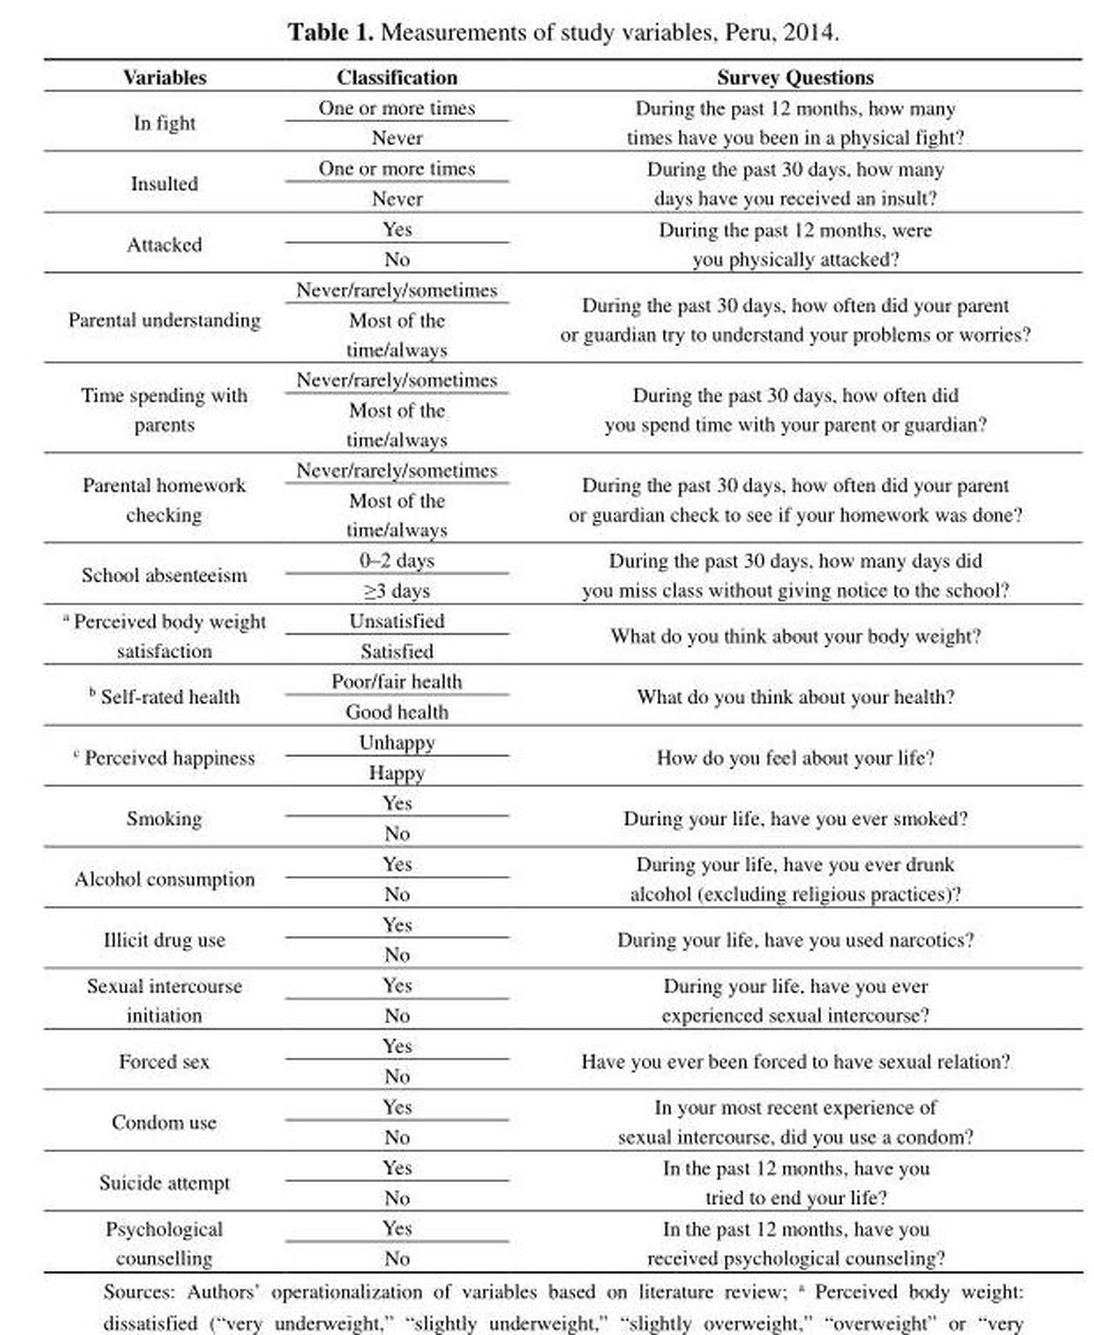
<table><thead><tr><td>Variables</td><td>Classification</td><td>Survey Questions</td></tr></thead><tbody><tr><td rowspan="2">In fight</td><td>One or more times</td><td rowspan="2">During the past 12 months, how many times have you been in a physical fight?</td></tr><tr><td>Never</td></tr><tr><td rowspan="2">Insulted</td><td>One or more times</td><td rowspan="2">During the past 30 days, how many days have you received an insult?</td></tr><tr><td>Never</td></tr><tr><td rowspan="2">Attacked</td><td>Yes</td><td rowspan="2">During the past 12 months, were you physically attacked?</td></tr><tr><td>No</td></tr><tr><td rowspan="2">Parental understanding</td><td>Never/rarely/sometimes</td><td rowspan="2">During the past 30 days, how often did your parent or guardian try to understand your problems or worries?</td></tr><tr><td>Most of the time/always</td></tr><tr><td rowspan="2">Time spending with parents</td><td>Never/rarely/sometimes</td><td rowspan="2">During the past 30 days, how often did you spend time with your parent or guardian?</td></tr><tr><td>Most of the time/always</td></tr><tr><td rowspan="2">Parental homework checking</td><td>Never/rarely/sometimes</td><td rowspan="2">During the past 30 days, how often did your parent or guardian check to see if your homework was done?</td></tr><tr><td>Most of the time/always</td></tr><tr><td rowspan="2">School absenteeism</td><td>0–2 days</td><td rowspan="2">During the past 30 days, how many days did you miss class without giving notice to the school?</td></tr><tr><td>≥3 days</td></tr><tr><td rowspan="2"><sup>a</sup> Perceived body weight satisfaction</td><td>Unsatisfied</td><td rowspan="2">What do you think about your body weight?</td></tr><tr><td>Satisfied</td></tr><tr><td rowspan="2"><sup>b</sup> Self-rated health</td><td>Poor/fair health</td><td rowspan="2">What do you think about your health?</td></tr><tr><td>Good health</td></tr><tr><td rowspan="2"><sup>c</sup> Perceived happiness</td><td>Unhappy</td><td rowspan="2">How do you feel about your life?</td></tr><tr><td>Happy</td></tr><tr><td rowspan="2">Smoking</td><td>Yes</td><td rowspan="2">During your life, have you ever smoked?</td></tr><tr><td>No</td></tr><tr><td rowspan="2">Alcohol consumption</td><td>Yes</td><td rowspan="2">During your life, have you ever drunk alcohol (excluding religious practices)?</td></tr><tr><td>No</td></tr><tr><td rowspan="2">Illicit drug use</td><td>Yes</td><td rowspan="2">During your life, have you used narcotics?</td></tr><tr><td>No</td></tr><tr><td rowspan="2">Sexual intercourse initiation</td><td>Yes</td><td rowspan="2">During your life, have you ever experienced sexual intercourse?</td></tr><tr><td>No</td></tr><tr><td rowspan="2">Forced sex</td><td>Yes</td><td rowspan="2">Have you ever been forced to have sexual relation?</td></tr><tr><td>No</td></tr><tr><td rowspan="2">Condom use</td><td>Yes</td><td rowspan="2">In your most recent experience of sexual intercourse, did you use a condom?</td></tr><tr><td>No</td></tr><tr><td rowspan="2">Suicide attempt</td><td>Yes</td><td rowspan="2">In the past 12 months, have you tried to end your life?</td></tr><tr><td>No</td></tr><tr><td rowspan="2">Psychological counselling</td><td>Yes</td><td rowspan="2">In the past 12 months, have you received psychological counseling?</td></tr><tr><td>No</td></tr></tbody></table>